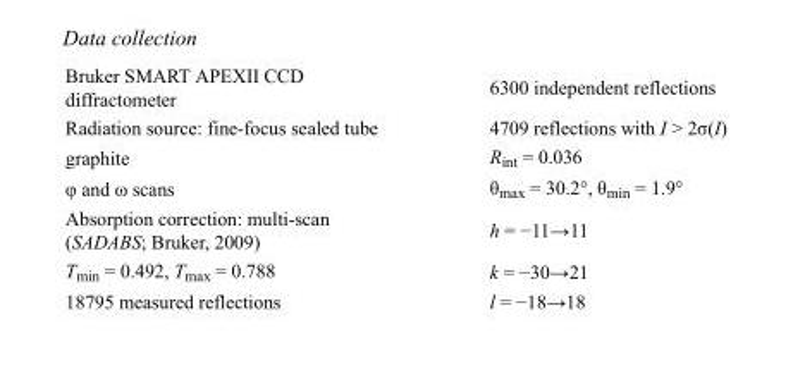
<table><tbody><tr><td>Bruker SMART APEXII CCD diffractometer</td><td>6300 independent reflections</td></tr><tr><td>Radiation source: fine-focus sealed tube</td><td>4709 reflections with I &gt; 2σ(I)</td></tr><tr><td>graphite</td><td>R<sub>int</sub> = 0.036</td></tr><tr><td>φ and ω scans</td><td>θ<sub>max</sub> = 30.2°, θ<sub>min</sub> = 1.9°</td></tr><tr><td>Absorption correction: multi-scan (SADABS; Bruker, 2009)</td><td>h = −11→11</td></tr><tr><td>T<sub>min</sub> = 0.492, T<sub>max</sub> = 0.788</td><td>k = −30→21</td></tr><tr><td>18795 measured reflections</td><td>l = −18→18</td></tr></tbody></table>